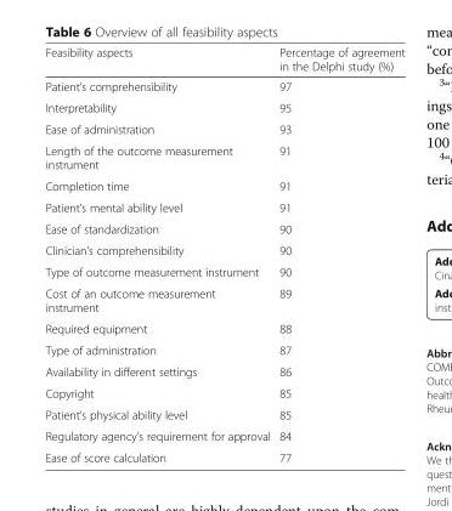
<table><thead><tr><td>Feasibility aspects</td><td>Percentage of agreement in the Delphi study (%)</td></tr></thead><tbody><tr><td>Patient’s comprehensibility</td><td>97</td></tr><tr><td>Interpretability</td><td>95</td></tr><tr><td>Ease of administration</td><td>93</td></tr><tr><td>Length of the outcome measurement instrument</td><td>91</td></tr><tr><td>Completion time</td><td>91</td></tr><tr><td>Patient’s mental ability level</td><td>91</td></tr><tr><td>Ease of standardization</td><td>90</td></tr><tr><td>Clinician’s comprehensibility</td><td>90</td></tr><tr><td>Type of outcome measurement instrument</td><td>90</td></tr><tr><td>Cost of an outcome measurement instrument</td><td>89</td></tr><tr><td>Required equipment</td><td>88</td></tr><tr><td>Type of administration</td><td>87</td></tr><tr><td>Availability in different settings</td><td>86</td></tr><tr><td>Copyright</td><td>85</td></tr><tr><td>Patient’s physical ability level</td><td>85</td></tr><tr><td>Regulatory agency’s requirement for approval</td><td>84</td></tr><tr><td>Ease of score calculation</td><td>77</td></tr></tbody></table>